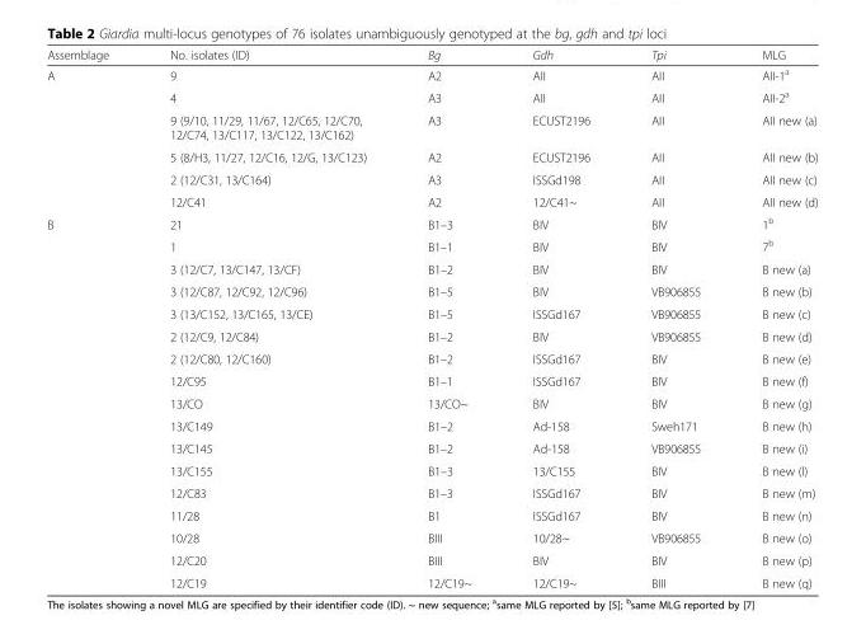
<table><thead><tr><td>Assemblage</td><td>No. isolates (ID)</td><td>Bg</td><td>Gdh</td><td>Tpi</td><td>MLG</td></tr></thead><tbody><tr><td rowspan="6">A</td><td>9</td><td>A2</td><td>AII</td><td>AII</td><td>AII-1<sup>a</sup></td></tr><tr><td>4</td><td>A3</td><td>AII</td><td>AII</td><td>AII-2<sup>a</sup></td></tr><tr><td>9 (9/10, 11/29, 11/67, 12/C65, 12/C70, 12/C74, 13/C117, 13/C122, 13/C162)</td><td>A3</td><td>ECUST2196</td><td>AII</td><td>AII new (a)</td></tr><tr><td>5 (8/H3, 11/27, 12/C16, 12/G, 13/C123)</td><td>A2</td><td>ECUST2196</td><td>AII</td><td>AII new (b)</td></tr><tr><td>2 (12/C31, 13/C164)</td><td>A3</td><td>ISSGd198</td><td>AII</td><td>AII new (c)</td></tr><tr><td>12/C41</td><td>A2</td><td>12/C41~</td><td>AII</td><td>AII new (d)</td></tr><tr><td rowspan="17">B</td><td>21</td><td>B1–3</td><td>BIV</td><td>BIV</td><td>1<sup>b</sup></td></tr><tr><td>1</td><td>B1–1</td><td>BIV</td><td>BIV</td><td>7<sup>b</sup></td></tr><tr><td>3 (12/C7, 13/C147, 13/CF)</td><td>B1–2</td><td>BIV</td><td>BIV</td><td>B new (a)</td></tr><tr><td>3 (12/C87, 12/C92, 12/C96)</td><td>B1–5</td><td>BIV</td><td>VB906855</td><td>B new (b)</td></tr><tr><td>3 (13/C152, 13/C165, 13/CE)</td><td>B1–5</td><td>ISSGd167</td><td>VB906855</td><td>B new (c)</td></tr><tr><td>2 (12/C9, 12/C84)</td><td>B1–2</td><td>BIV</td><td>VB906855</td><td>B new (d)</td></tr><tr><td>2 (12/C80, 12/C160)</td><td>B1–2</td><td>ISSGd167</td><td>BIV</td><td>B new (e)</td></tr><tr><td>12/C95</td><td>B1–1</td><td>ISSGd167</td><td>BIV</td><td>B new (f)</td></tr><tr><td>13/CO</td><td>13/CO~</td><td>BIV</td><td>BIV</td><td>B new (g)</td></tr><tr><td>13/C149</td><td>B1–2</td><td>Ad-158</td><td>Sweh171</td><td>B new (h)</td></tr><tr><td>13/C145</td><td>B1–2</td><td>Ad-158</td><td>VB906855</td><td>B new (i)</td></tr><tr><td>13/C155</td><td>B1–3</td><td>13/C155</td><td>BIV</td><td>B new (l)</td></tr><tr><td>12/C83</td><td>B1–3</td><td>ISSGd167</td><td>BIV</td><td>B new (m)</td></tr><tr><td>11/28</td><td>B1</td><td>ISSGd167</td><td>BIV</td><td>B new (n)</td></tr><tr><td>10/28</td><td>BIII</td><td>10/28~</td><td>VB906855</td><td>B new (o)</td></tr><tr><td>12/C20</td><td>BIII</td><td>BIV</td><td>BIV</td><td>B new (p)</td></tr><tr><td>12/C19</td><td>12/C19~</td><td>12/C19~</td><td>BIII</td><td>B new (q)</td></tr></tbody></table>